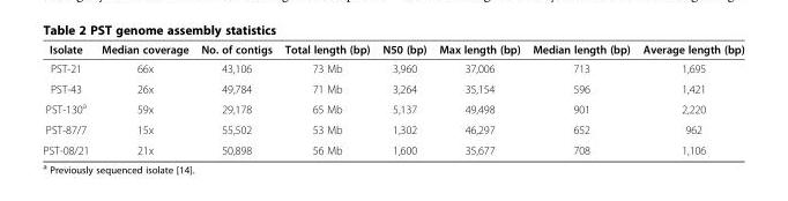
<table><thead><tr><td>Isolate</td><td>Median coverage</td><td>No. of contigs</td><td>Total length (bp)</td><td>N50 (bp)</td><td>Max length (bp)</td><td>Median length (bp)</td><td>Average length (bp)</td></tr></thead><tbody><tr><td>PST-21</td><td>66x</td><td>43,106</td><td>73 Mb</td><td>3,960</td><td>37,006</td><td>713</td><td>1,695</td></tr><tr><td>PST-43</td><td>26x</td><td>49,784</td><td>71 Mb</td><td>3,264</td><td>35,154</td><td>596</td><td>1,421</td></tr><tr><td>PST-130<sup>a</sup></td><td>59x</td><td>29,178</td><td>65 Mb</td><td>5,137</td><td>49,498</td><td>901</td><td>2,220</td></tr><tr><td>PST-87/7</td><td>15x</td><td>55,502</td><td>53 Mb</td><td>1,302</td><td>46,297</td><td>652</td><td>962</td></tr><tr><td>PST-08/21</td><td>21x</td><td>50,898</td><td>56 Mb</td><td>1,600</td><td>35,677</td><td>708</td><td>1,106</td></tr></tbody></table>